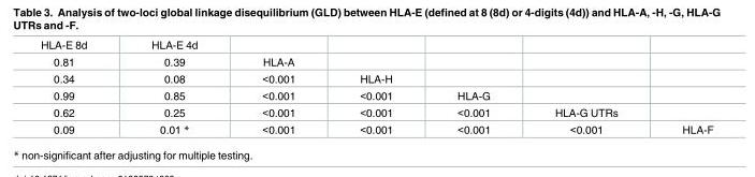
<table><tbody><tr><td>HLA-E 8d</td><td>HLA-E 4d</td><td></td><td></td><td></td><td></td><td></td></tr><tr><td>0.81</td><td>0.39</td><td>HLA-A</td><td></td><td></td><td></td><td></td></tr><tr><td>0.34</td><td>0.08</td><td>&lt;0.001</td><td>HLA-H</td><td></td><td></td><td></td></tr><tr><td>0.99</td><td>0.85</td><td>&lt;0.001</td><td>&lt;0.001</td><td>HLA-G</td><td></td><td></td></tr><tr><td>0.62</td><td>0.25</td><td>&lt;0.001</td><td>&lt;0.001</td><td>&lt;0.001</td><td>HLA-G UTRs</td><td></td></tr><tr><td>0.09</td><td>0.01 *</td><td>&lt;0.001</td><td>&lt;0.001</td><td>&lt;0.001</td><td>&lt;0.001</td><td>HLA-F</td></tr></tbody></table>